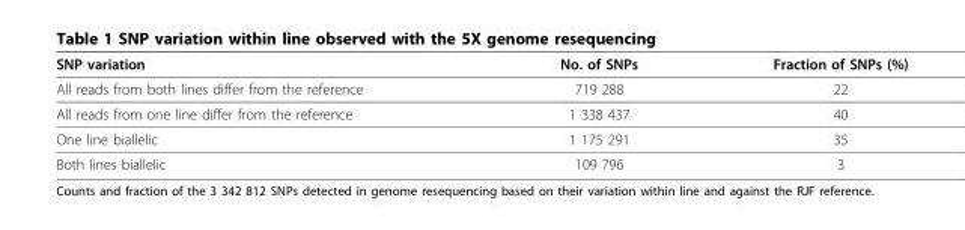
<table><thead><tr><td>SNP variation</td><td>No. of SNPs</td><td>Fraction of SNPs (%)</td></tr></thead><tbody><tr><td>All reads from both lines differ from the reference</td><td>719 288</td><td>22</td></tr><tr><td>All reads from one line differ from the reference</td><td>1 338 437</td><td>40</td></tr><tr><td>One line biallelic</td><td>1 175 291</td><td>35</td></tr><tr><td>Both lines biallelic</td><td>109 796</td><td>3</td></tr></tbody></table>